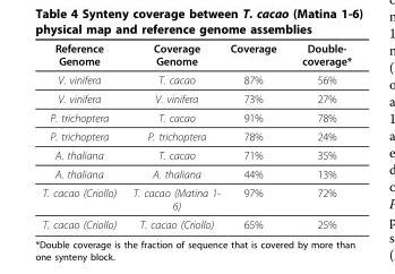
<table><thead><tr><td>Reference Genome</td><td>Coverage Genome</td><td>Coverage</td><td>Double- coverage*</td></tr></thead><tbody><tr><td>V. vinifera</td><td>T. cacao</td><td>87%</td><td>56%</td></tr><tr><td>V. vinifera</td><td>V. vinifera</td><td>73%</td><td>27%</td></tr><tr><td>P. trichoptera</td><td>T. cacao</td><td>91%</td><td>78%</td></tr><tr><td>P. trichoptera</td><td>P. trichoptera</td><td>78%</td><td>24%</td></tr><tr><td>A. thaliana</td><td>T. cacao</td><td>71%</td><td>35%</td></tr><tr><td>A. thaliana</td><td>A. thaliana</td><td>44%</td><td>13%</td></tr><tr><td>T. cacao (Criollo)</td><td>T. cacao (Matina 1- 6)</td><td>97%</td><td>72%</td></tr><tr><td>T. cacao (Criollo)</td><td>T. cacao (Criollo)</td><td>65%</td><td>25%</td></tr></tbody></table>